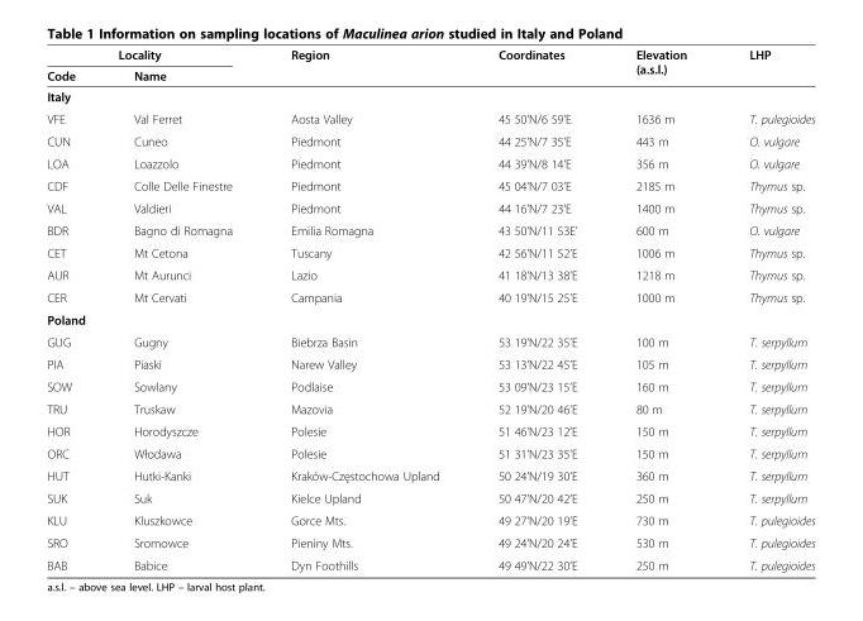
<table><thead><tr><td colspan="2">Locality</td><td rowspan="2">Region</td><td rowspan="2">Coordinates</td><td rowspan="2">Elevation (a.s.l.)</td><td rowspan="2">LHP</td></tr><tr><td>Code</td><td>Name</td></tr></thead><tbody><tr><td colspan="6">Italy</td></tr><tr><td>VFE</td><td>Val Ferret</td><td>Aosta Valley</td><td>45 50’N/6 59’E</td><td>1636 m</td><td>T. pulegioides</td></tr><tr><td>CUN</td><td>Cuneo</td><td>Piedmont</td><td>44 25’N/7 35’E</td><td>443 m</td><td>O. vulgare</td></tr><tr><td>LOA</td><td>Loazzolo</td><td>Piedmont</td><td>44 39’N/8 14’E</td><td>356 m</td><td>O. vulgare</td></tr><tr><td>CDF</td><td>Colle Delle Finestre</td><td>Piedmont</td><td>45 04’N/7 03’E</td><td>2185 m</td><td>Thymus sp.</td></tr><tr><td>VAL</td><td>Valdieri</td><td>Piedmont</td><td>44 16’N/7 23’E</td><td>1400 m</td><td>Thymus sp.</td></tr><tr><td>BDR</td><td>Bagno di Romagna</td><td>Emilia Romagna</td><td>43 50’N/11 53E’</td><td>600 m</td><td>O. vulgare</td></tr><tr><td>CET</td><td>Mt Cetona</td><td>Tuscany</td><td>42 56’N/11 52’E</td><td>1006 m</td><td>Thymus sp.</td></tr><tr><td>AUR</td><td>Mt Aurunci</td><td>Lazio</td><td>41 18’N/13 38’E</td><td>1218 m</td><td>Thymus sp.</td></tr><tr><td>CER</td><td>Mt Cervati</td><td>Campania</td><td>40 19’N/15 25’E</td><td>1000 m</td><td>Thymus sp.</td></tr><tr><td colspan="6">Poland</td></tr><tr><td>GUG</td><td>Gugny</td><td>Biebrza Basin</td><td>53 19’N/22 35’E</td><td>100 m</td><td>T. serpyllum</td></tr><tr><td>PIA</td><td>Piaski</td><td>Narew Valley</td><td>53 13’N/22 45’E</td><td>105 m</td><td>T. serpyllum</td></tr><tr><td>SOW</td><td>Sowlany</td><td>Podlaise</td><td>53 09’N/23 15’E</td><td>160 m</td><td>T. serpyllum</td></tr><tr><td>TRU</td><td>Truskaw</td><td>Mazovia</td><td>52 19’N/20 46’E</td><td>80 m</td><td>T. serpyllum</td></tr><tr><td>HOR</td><td>Horodyszcze</td><td>Polesie</td><td>51 46’N/23 12’E</td><td>150 m</td><td>T. serpyllum</td></tr><tr><td>ORC</td><td>Włodawa</td><td>Polesie</td><td>51 31’N/23 35’E</td><td>150 m</td><td>T. serpyllum</td></tr><tr><td>HUT</td><td>Hutki-Kanki</td><td>Kraków-Częstochowa Upland</td><td>50 24’N/19 30’E</td><td>360 m</td><td>T. serpyllum</td></tr><tr><td>SUK</td><td>Suk</td><td>Kielce Upland</td><td>50 47’N/20 42’E</td><td>250 m</td><td>T. serpyllum</td></tr><tr><td>KLU</td><td>Kluszkowce</td><td>Gorce Mts.</td><td>49 27’N/20 19’E</td><td>730 m</td><td>T. pulegioides</td></tr><tr><td>SRO</td><td>Sromowce</td><td>Pieniny Mts.</td><td>49 24’N/20 24’E</td><td>530 m</td><td>T. pulegioides</td></tr><tr><td>BAB</td><td>Babice</td><td>Dyn Foothills</td><td>49 49’N/22 30’E</td><td>250 m</td><td>T. pulegioides</td></tr></tbody></table>